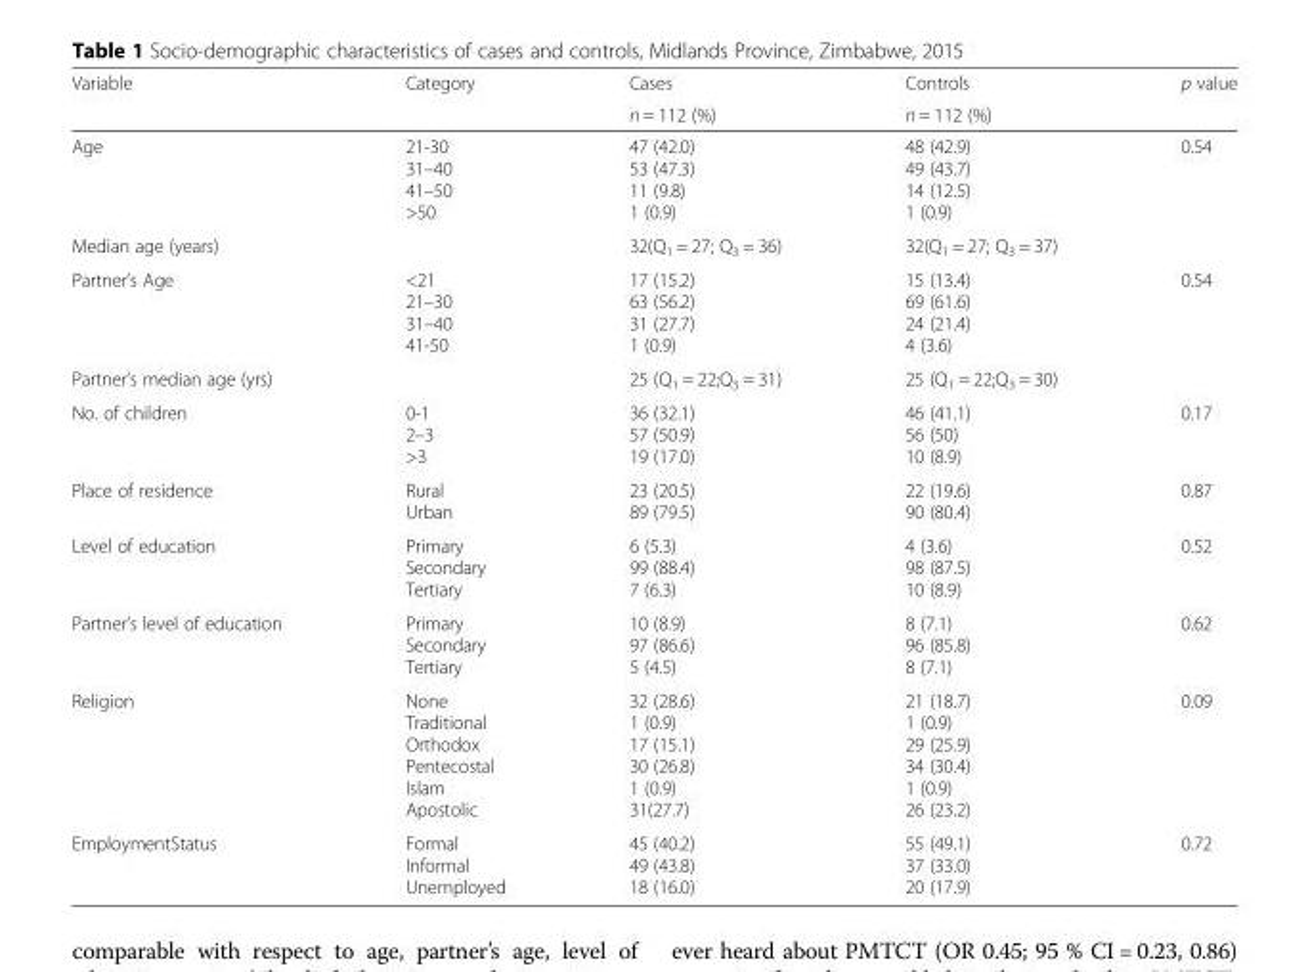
<table><thead><tr><td rowspan="2">Variable</td><td rowspan="2">Category</td><td rowspan="2">Cases n = 112 (%)</td><td rowspan="2">Controls n = 112 (%)</td><td rowspan="2">p value</td></tr><tr></tr></thead><tbody><tr><td>Age</td><td>21-30 31–40 41–50 &gt;50</td><td>47 (42.0) 53 (47.3) 11 (9.8) 1 (0.9)</td><td>48 (42.9) 49 (43.7) 14 (12.5) 1 (0.9)</td><td>0.54</td></tr><tr><td>Median age (years)</td><td></td><td>32(Q<sub>1</sub> = 27; Q<sub>3</sub> = 36)</td><td>32(Q<sub>1</sub> = 27; Q<sub>3</sub> = 37)</td><td></td></tr><tr><td>Partner’s Age</td><td>&lt;21 21–30 31–40 41-50</td><td>17 (15.2) 63 (56.2) 31 (27.7) 1 (0.9)</td><td>15 (13.4) 69 (61.6) 24 (21.4) 4 (3.6)</td><td>0.54</td></tr><tr><td>Partner’s median age (yrs)</td><td></td><td>25 (Q<sub>1</sub> = 22;Q<sub>3</sub> = 31)</td><td>25 (Q<sub>1</sub> = 22;Q<sub>3</sub> = 30)</td><td></td></tr><tr><td>No. of children</td><td>0-1 2–3 &gt;3</td><td>36 (32.1) 57 (50.9) 19 (17.0)</td><td>46 (41.1) 56 (50) 10 (8.9)</td><td>0.17</td></tr><tr><td>Place of residence</td><td>Rural Urban</td><td>23 (20.5) 89 (79.5)</td><td>22 (19.6) 90 (80.4)</td><td>0.87</td></tr><tr><td>Level of education</td><td>Primary Secondary Tertiary</td><td>6 (5.3) 99 (88.4) 7 (6.3)</td><td>4 (3.6) 98 (87.5) 10 (8.9)</td><td>0.52</td></tr><tr><td>Partner’s level of education</td><td>Primary Secondary Tertiary</td><td>10 (8.9) 97 (86.6) 5 (4.5)</td><td>8 (7.1) 96 (85.8) 8 (7.1)</td><td>0.62</td></tr><tr><td>Religion</td><td>None Traditional Orthodox Pentecostal Islam Apostolic</td><td>32 (28.6) 1 (0.9) 17 (15.1) 30 (26.8) 1 (0.9) 31(27.7)</td><td>21 (18.7) 1 (0.9) 29 (25.9) 34 (30.4) 1 (0.9) 26 (23.2)</td><td>0.09</td></tr><tr><td>EmploymentStatus</td><td>Formal Informal Unemployed</td><td>45 (40.2) 49 (43.8) 18 (16.0)</td><td>55 (49.1) 37 (33.0) 20 (17.9)</td><td>0.72</td></tr></tbody></table>